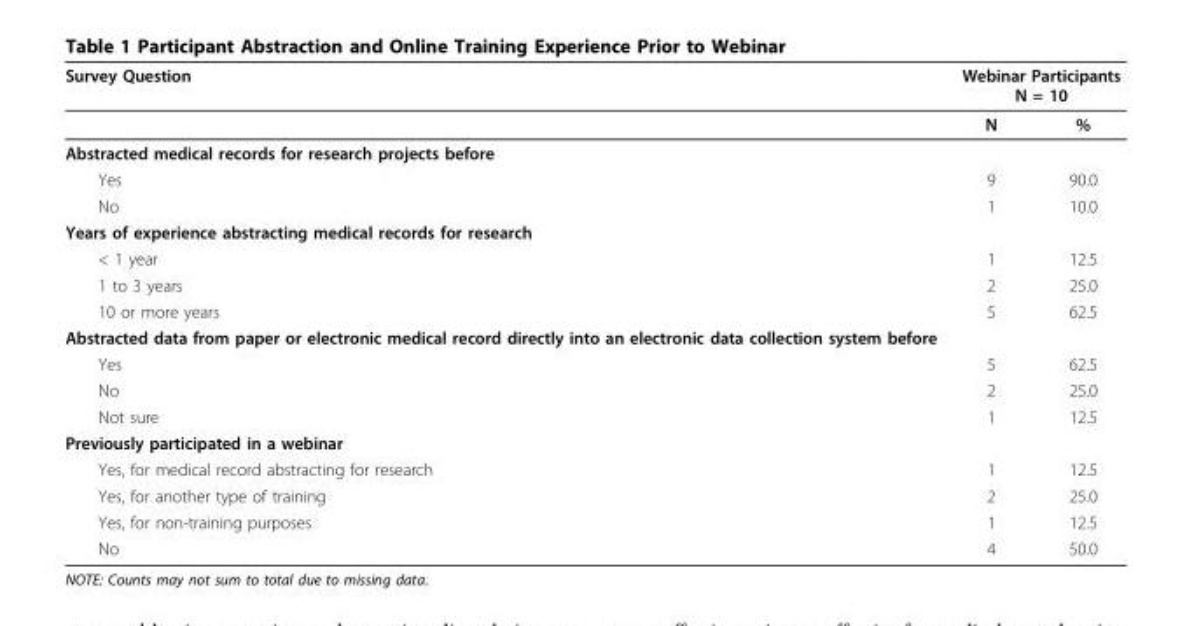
<table><thead><tr><td rowspan="2">Survey Question</td><td colspan="2">Webinar Participants N = 10</td></tr><tr><td>N</td><td>%</td></tr></thead><tbody><tr><td colspan="3">Abstracted medical records for research projects before</td></tr><tr><td>Yes</td><td>9</td><td>90.0</td></tr><tr><td>No</td><td>1</td><td>10.0</td></tr><tr><td colspan="3">Years of experience abstracting medical records for research</td></tr><tr><td>&lt; 1 year</td><td>1</td><td>12.5</td></tr><tr><td>1 to 3 years</td><td>2</td><td>25.0</td></tr><tr><td>10 or more years</td><td>5</td><td>62.5</td></tr><tr><td colspan="3">Abstracted data from paper or electronic medical record directly into an electronic data collection system before</td></tr><tr><td>Yes</td><td>5</td><td>62.5</td></tr><tr><td>No</td><td>2</td><td>25.0</td></tr><tr><td>Not sure</td><td>1</td><td>12.5</td></tr><tr><td colspan="3">Previously participated in a webinar</td></tr><tr><td>Yes, for medical record abstracting for research</td><td>1</td><td>12.5</td></tr><tr><td>Yes, for another type of training</td><td>2</td><td>25.0</td></tr><tr><td>Yes, for non-training purposes</td><td>1</td><td>12.5</td></tr><tr><td>No</td><td>4</td><td>50.0</td></tr></tbody></table>